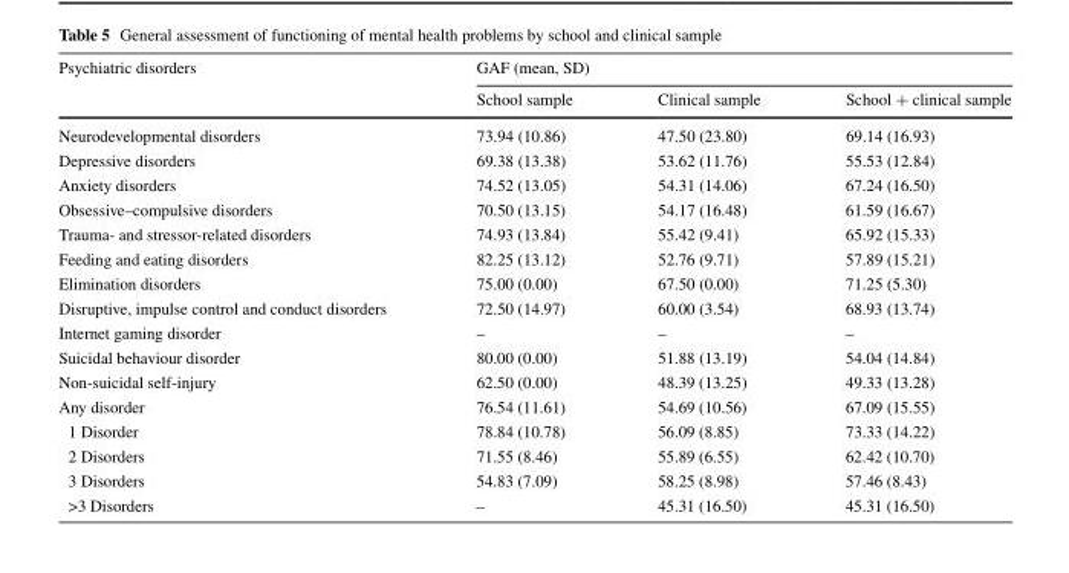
<table><thead><tr><td rowspan="2">Psychiatric disorders</td><td colspan="3">GAF (mean, SD)</td></tr><tr><td>School sample</td><td>Clinical sample</td><td>School + clinical sample</td></tr></thead><tbody><tr><td>Neurodevelopmental disorders</td><td>73.94 (10.86)</td><td>47.50 (23.80)</td><td>69.14 (16.93)</td></tr><tr><td>Depressive disorders</td><td>69.38 (13.38)</td><td>53.62 (11.76)</td><td>55.53 (12.84)</td></tr><tr><td>Anxiety disorders</td><td>74.52 (13.05)</td><td>54.31 (14.06)</td><td>67.24 (16.50)</td></tr><tr><td>Obsessive–compulsive disorders</td><td>70.50 (13.15)</td><td>54.17 (16.48)</td><td>61.59 (16.67)</td></tr><tr><td>Trauma- and stressor-related disorders</td><td>74.93 (13.84)</td><td>55.42 (9.41)</td><td>65.92 (15.33)</td></tr><tr><td>Feeding and eating disorders</td><td>82.25 (13.12)</td><td>52.76 (9.71)</td><td>57.89 (15.21)</td></tr><tr><td>Elimination disorders</td><td>75.00 (0.00)</td><td>67.50 (0.00)</td><td>71.25 (5.30)</td></tr><tr><td>Disruptive, impulse control and conduct disorders</td><td>72.50 (14.97)</td><td>60.00 (3.54)</td><td>68.93 (13.74)</td></tr><tr><td>Internet gaming disorder</td><td>–</td><td>–</td><td>–</td></tr><tr><td>Suicidal behaviour disorder</td><td>80.00 (0.00)</td><td>51.88 (13.19)</td><td>54.04 (14.84)</td></tr><tr><td>Non-suicidal self-injury</td><td>62.50 (0.00)</td><td>48.39 (13.25)</td><td>49.33 (13.28)</td></tr><tr><td>Any disorder</td><td>76.54 (11.61)</td><td>54.69 (10.56)</td><td>67.09 (15.55)</td></tr><tr><td>1 Disorder</td><td>78.84 (10.78)</td><td>56.09 (8.85)</td><td>73.33 (14.22)</td></tr><tr><td>2 Disorders</td><td>71.55 (8.46)</td><td>55.89 (6.55)</td><td>62.42 (10.70)</td></tr><tr><td>3 Disorders</td><td>54.83 (7.09)</td><td>58.25 (8.98)</td><td>57.46 (8.43)</td></tr><tr><td>&gt;3 Disorders</td><td>–</td><td>45.31 (16.50)</td><td>45.31 (16.50)</td></tr></tbody></table>